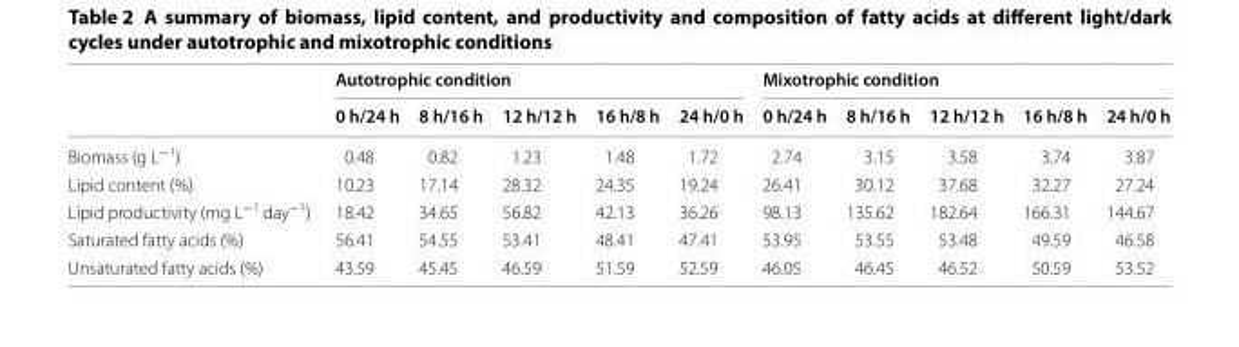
<table><thead><tr><td rowspan="2"></td><td colspan="5">Autotrophic condition</td><td colspan="5">Mixotrophic condition</td></tr><tr><td>0 h/24 h</td><td>8 h/16 h</td><td>12 h/12 h</td><td>16 h/8 h</td><td>24 h/0 h</td><td>0 h/24 h</td><td>8 h/16 h</td><td>12 h/12 h</td><td>16 h/8 h</td><td>24 h/0 h</td></tr></thead><tbody><tr><td>Biomass (g L<sup>−1</sup>)</td><td>0.48</td><td>0.82</td><td>1.23</td><td>1.48</td><td>1.72</td><td>2.74</td><td>3.15</td><td>3.58</td><td>3.74</td><td>3.87</td></tr><tr><td>Lipid content (%)</td><td>10.23</td><td>17.14</td><td>28.32</td><td>24.35</td><td>19.24</td><td>26.41</td><td>30.12</td><td>37.68</td><td>32.27</td><td>27.24</td></tr><tr><td>Lipid productivity (mg L<sup>−1</sup> day<sup>−1</sup>)</td><td>18.42</td><td>34.65</td><td>56.82</td><td>42.13</td><td>36.26</td><td>98.13</td><td>135.62</td><td>182.64</td><td>166.31</td><td>144.67</td></tr><tr><td>Saturated fatty acids (%)</td><td>56.41</td><td>54.55</td><td>53.41</td><td>48.41</td><td>47.41</td><td>53.95</td><td>53.55</td><td>53.48</td><td>49.59</td><td>46.58</td></tr><tr><td>Unsaturated fatty acids (%)</td><td>43.59</td><td>45.45</td><td>46.59</td><td>51.59</td><td>52.59</td><td>46.05</td><td>46.45</td><td>46.52</td><td>50.59</td><td>53.52</td></tr></tbody></table>